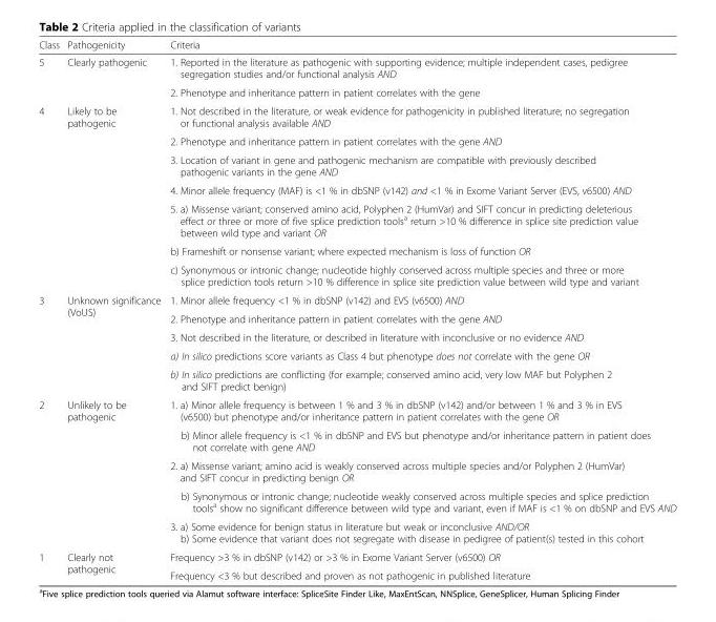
<table><thead><tr><td>Class</td><td>Pathogenicity</td><td>Criteria</td></tr></thead><tbody><tr><td rowspan="2">5</td><td rowspan="2">Clearly pathogenic</td><td>1. Reported in the literature as pathogenic with supporting evidence; multiple independent cases, pedigree segregation studies and/or functional analysis AND</td></tr><tr><td>2. Phenotype and inheritance pattern in patient correlates with the gene</td></tr><tr><td rowspan="7">4</td><td rowspan="7">Likely to be pathogenic</td><td>1. Not described in the literature, or weak evidence for pathogenicity in published literature; no segregation or functional analysis available AND</td></tr><tr><td>2. Phenotype and inheritance pattern in patient correlates with the gene AND</td></tr><tr><td>3. Location of variant in gene and pathogenic mechanism are compatible with previously described pathogenic variants in the gene AND</td></tr><tr><td>4. Minor allele frequency (MAF) is &lt;1 % in dbSNP (v142) and &lt;1 % in Exome Variant Server (EVS, v6500) AND</td></tr><tr><td>5. a) Missense variant; conserved amino acid, Polyphen 2 (HumVar) and SIFT concur in predicting deleterious effect or three or more of five splice prediction tools<sup>a</sup> return &gt;10 % difference in splice site prediction value between wild type and variant OR</td></tr><tr><td>b) Frameshift or nonsense variant; where expected mechanism is loss of function OR</td></tr><tr><td>c) Synonymous or intronic change; nucleotide highly conserved across multiple species and three or more splice prediction tools return &gt;10 % difference in splice site prediction value between wild type and variant</td></tr><tr><td rowspan="5">3</td><td rowspan="5">Unknown significance (VoUS)</td><td>1. Minor allele frequency &lt;1 % in dbSNP (v142) and EVS (v6500) AND</td></tr><tr><td>2. Phenotype and inheritance pattern in patient correlates with the gene AND</td></tr><tr><td>3. Not described in the literature, or described in literature with inconclusive or no evidence AND</td></tr><tr><td>a) In silico predictions score variants as Class 4 but phenotype does not correlate with the gene OR</td></tr><tr><td>b) In silico predictions are conflicting (for example; conserved amino acid, very low MAF but Polyphen 2 and SIFT predict benign)</td></tr><tr><td rowspan="5">2</td><td rowspan="5">Unlikely to be pathogenic</td><td>1. a) Minor allele frequency is between 1 % and 3 % in dbSNP (v142) and/or between 1 % and 3 % in EVS (v6500) but phenotype and/or inheritance pattern in patient correlates with the gene OR</td></tr><tr><td>b) Minor allele frequency is &lt;1 % in dbSNP and EVS but phenotype and/or inheritance pattern in patient does not correlate with gene AND</td></tr><tr><td>2. a) Missense variant; amino acid is weakly conserved across multiple species and/or Polyphen 2 (HumVar) and SIFT concur in predicting benign OR</td></tr><tr><td>b) Synonymous or intronic change; nucleotide weakly conserved across multiple species and splice prediction tools<sup>a</sup> show no significant difference between wild type and variant, even if MAF is &lt;1 % on dbSNP and EVS AND</td></tr><tr><td>3. a) Some evidence for benign status in literature but weak or inconclusive AND/OR b) Some evidence that variant does not segregate with disease in pedigree of patient(s) tested in this cohort</td></tr><tr><td rowspan="2">1</td><td rowspan="2">Clearly not pathogenic</td><td>Frequency &gt;3 % in dbSNP (v142) or &gt;3 % in Exome Variant Server (v6500) OR</td></tr><tr><td>Frequency &lt;3 % but described and proven as not pathogenic in published literature</td></tr></tbody></table>